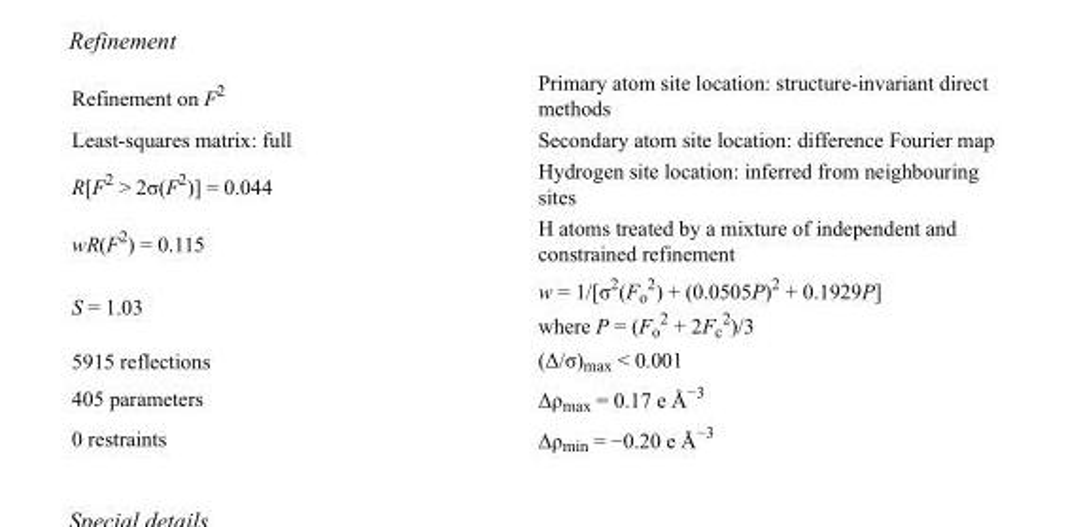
<table><tbody><tr><td>Refinement on F<sup>2</sup></td><td>Primary atom site location: structure-invariant direct methods</td></tr><tr><td>Least-squares matrix: full</td><td>Secondary atom site location: difference Fourier map</td></tr><tr><td>R[F<sup>2</sup> &gt; 2σ(F<sup>2</sup>)] = 0.044</td><td>Hydrogen site location: inferred from neighbouring sites</td></tr><tr><td>wR(F<sup>2</sup>) = 0.115</td><td>H atoms treated by a mixture of independent and constrained refinement</td></tr><tr><td>S = 1.03</td><td>w = 1/[σ<sup>2</sup>(F<sub>o</sub> <sup>2</sup>) + (0.0505P)<sup>2</sup> + 0.1929P] where P = (F<sub>o</sub> <sup>2</sup> + 2F<sub>c</sub> <sup>2</sup>)/3</td></tr><tr><td>5915 reflections</td><td>(Δ/σ)<sub>max</sub> &lt; 0.001</td></tr><tr><td>405 parameters</td><td>Δρ<sub>max</sub> = 0.17 e Å<sup>−3</sup></td></tr><tr><td>0 restraints</td><td>Δρ<sub>min</sub> = −0.20 e Å<sup>−3</sup></td></tr></tbody></table>